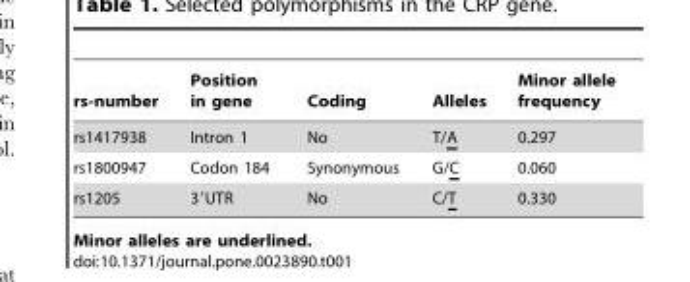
<table><thead><tr><td>rs-number</td><td>Position in gene</td><td>Coding</td><td>Alleles</td><td>Minor allele frequency</td></tr></thead><tbody><tr><td>rs1417938</td><td>Intron 1</td><td>No</td><td>T/A</td><td>0.297</td></tr><tr><td>rs1800947</td><td>Codon 184</td><td>Synonymous</td><td>G/C</td><td>0.060</td></tr><tr><td>rs1205</td><td>3′UTR</td><td>No</td><td>C/T</td><td>0.330</td></tr></tbody></table>